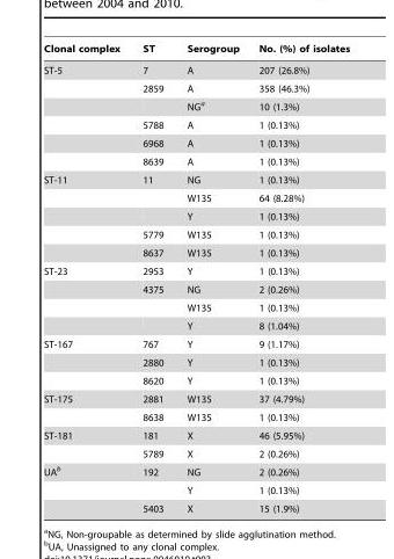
<table><thead><tr><td>Clonal complex</td><td>ST</td><td>Serogroup</td><td>No. (%) of isolates</td></tr></thead><tbody><tr><td rowspan="6">ST-5</td><td>7</td><td>A</td><td>207 (26.8%)</td></tr><tr><td>2859</td><td>A</td><td>358 (46.3%)</td></tr><tr><td></td><td>NG<sup>a</sup></td><td>10 (1.3%)</td></tr><tr><td>5788</td><td>A</td><td>1 (0.13%)</td></tr><tr><td>6968</td><td>A</td><td>1 (0.13%)</td></tr><tr><td>8639</td><td>A</td><td>1 (0.13%)</td></tr><tr><td rowspan="5">ST-11</td><td>11</td><td>NG</td><td>1 (0.13%)</td></tr><tr><td></td><td>W135</td><td>64 (8.28%)</td></tr><tr><td></td><td>Y</td><td>1 (0.13%)</td></tr><tr><td>5779</td><td>W135</td><td>1 (0.13%)</td></tr><tr><td>8637</td><td>W135</td><td>1 (0.13%)</td></tr><tr><td rowspan="4">ST-23</td><td>2953</td><td>Y</td><td>1 (0.13%)</td></tr><tr><td>4375</td><td>NG</td><td>2 (0.26%)</td></tr><tr><td></td><td>W135</td><td>1 (0.13%)</td></tr><tr><td></td><td>Y</td><td>8 (1.04%)</td></tr><tr><td rowspan="3">ST-167</td><td>767</td><td>Y</td><td>9 (1.17%)</td></tr><tr><td>2880</td><td>Y</td><td>1 (0.13%)</td></tr><tr><td>8620</td><td>Y</td><td>1 (0.13%)</td></tr><tr><td rowspan="2">ST-175</td><td>2881</td><td>W135</td><td>37 (4.79%)</td></tr><tr><td>8638</td><td>W135</td><td>1 (0.13%)</td></tr><tr><td rowspan="2">ST-181</td><td>181</td><td>X</td><td>46 (5.95%)</td></tr><tr><td>5789</td><td>X</td><td>2 (0.26%)</td></tr><tr><td rowspan="3">UA<sup>b</sup></td><td>192</td><td>NG</td><td>2 (0.26%)</td></tr><tr><td></td><td>Y</td><td>1 (0.13%)</td></tr><tr><td>5403</td><td>X</td><td>15 (1.9%)</td></tr></tbody></table>